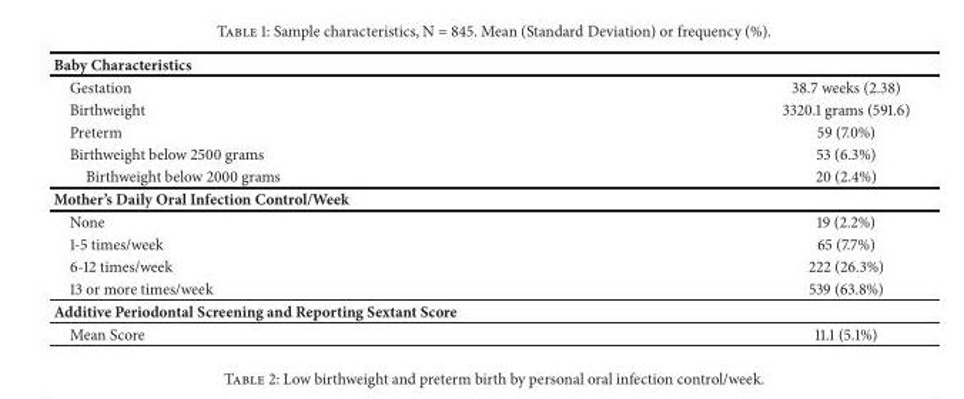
<table><thead><tr><td colspan="2">Baby Characteristics</td></tr><tr><td>Gestation</td><td>38.7 weeks (2.38)</td></tr></thead><tbody><tr><td>Birthweight</td><td>3320.1 grams (591.6)</td></tr><tr><td>Preterm</td><td>59 (7.0%)</td></tr><tr><td>Birthweight below 2500 grams</td><td>53 (6.3%)</td></tr><tr><td>Birthweight below 2000 grams</td><td>20 (2.4%)</td></tr><tr><td colspan="2">Mother’s Daily Oral Infection Control/Week</td></tr><tr><td>None</td><td>19 (2.2%)</td></tr><tr><td>1-5 times/week</td><td>65 (7.7%)</td></tr><tr><td>6-12 times/week</td><td>222 (26.3%)</td></tr><tr><td>13 or more times/week</td><td>539 (63.8%)</td></tr><tr><td colspan="2">Additive Periodontal Screening and Reporting Sextant Score</td></tr><tr><td>Mean Score</td><td>11.1 (5.1%)</td></tr></tbody></table>